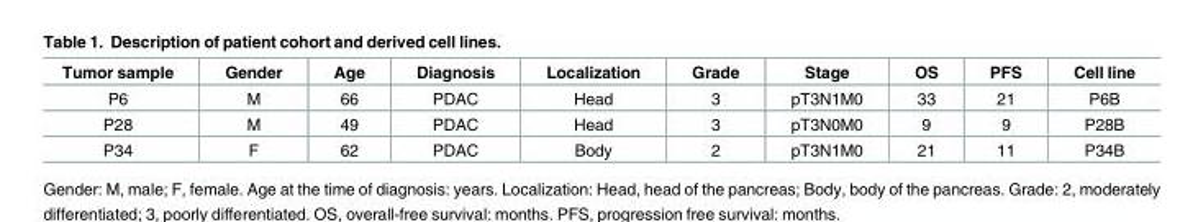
<table><thead><tr><td>Tumor sample</td><td>Gender</td><td>Age</td><td>Diagnosis</td><td>Localization</td><td>Grade</td><td>Stage</td><td>OS</td><td>PFS</td><td>Cell line</td></tr></thead><tbody><tr><td>P6</td><td>M</td><td>66</td><td>PDAC</td><td>Head</td><td>3</td><td>pT3N1M0</td><td>33</td><td>21</td><td>P6B</td></tr><tr><td>P28</td><td>M</td><td>49</td><td>PDAC</td><td>Head</td><td>3</td><td>pT3N0M0</td><td>9</td><td>9</td><td>P28B</td></tr><tr><td>P34</td><td>F</td><td>62</td><td>PDAC</td><td>Body</td><td>2</td><td>pT3N1M0</td><td>21</td><td>11</td><td>P34B</td></tr></tbody></table>